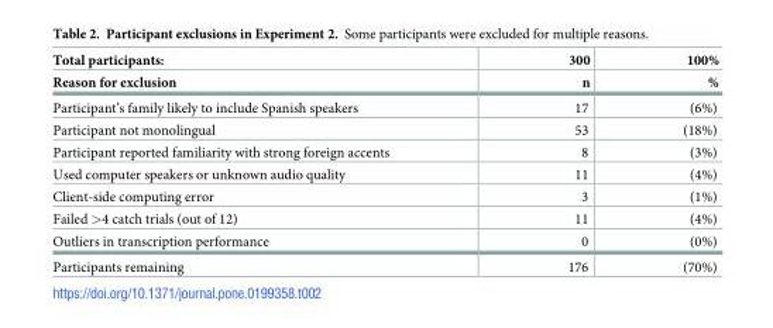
<table><thead><tr><td rowspan="2">Total participants: Reason for exclusion</td><td rowspan="2">300 n</td><td rowspan="2">100% %</td></tr><tr></tr></thead><tbody><tr><td>Participant’s family likely to include Spanish speakers</td><td>17</td><td>(6%)</td></tr><tr><td>Participant not monolingual</td><td>53</td><td>(18%)</td></tr><tr><td>Participant reported familiarity with strong foreign accents</td><td>8</td><td>(3%)</td></tr><tr><td>Used computer speakers or unknown audio quality</td><td>11</td><td>(4%)</td></tr><tr><td>Client-side computing error</td><td>3</td><td>(1%)</td></tr><tr><td>Failed &gt;4 catch trials (out of 12)</td><td>11</td><td>(4%)</td></tr><tr><td>Outliers in transcription performance</td><td>0</td><td>(0%)</td></tr><tr><td>Participants remaining</td><td>176</td><td>(70%)</td></tr></tbody></table>